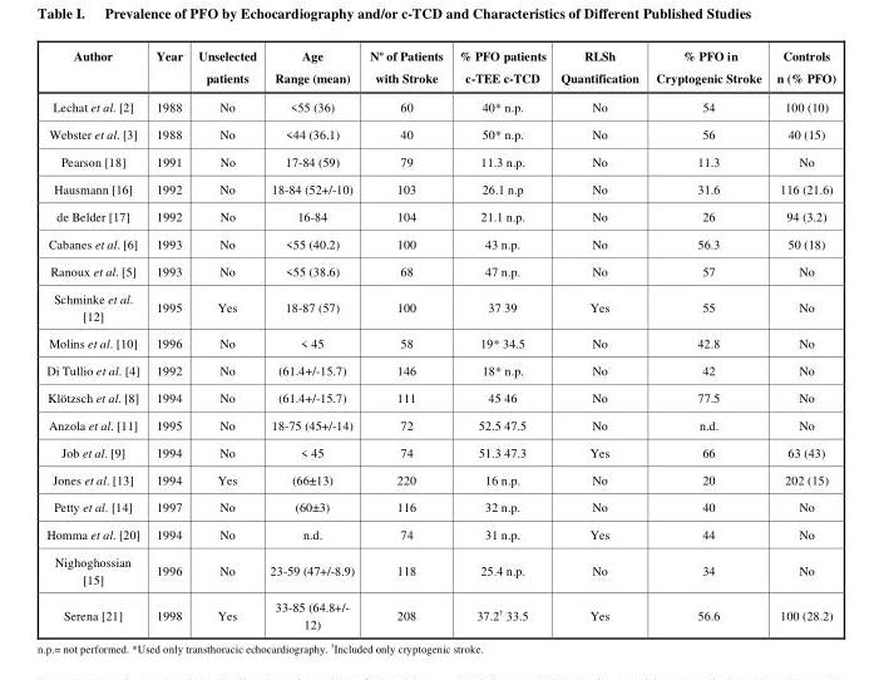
<table><thead><tr><td>Author</td><td>Year</td><td>Unselected patients</td><td>Age Range (mean)</td><td>Nº of Patients with Stroke</td><td>% PFO patients c-TEE c-TCD</td><td>RLSh Quantification</td><td>% PFO in Cryptogenic Stroke</td><td>Controls n (% PFO)</td></tr></thead><tbody><tr><td>Lechat et al. [2]</td><td>1988</td><td>No</td><td>&lt;55 (36)</td><td>60</td><td>40* n.p.</td><td>No</td><td>54</td><td>100 (10)</td></tr><tr><td>Webster et al. [3]</td><td>1988</td><td>No</td><td>&lt;44 (36.1)</td><td>40</td><td>50* n.p.</td><td>No</td><td>56</td><td>40 (15)</td></tr><tr><td>Pearson [18]</td><td>1991</td><td>No</td><td>17-84 (59)</td><td>79</td><td>11.3 n.p.</td><td>No</td><td>11.3</td><td>No</td></tr><tr><td>Hausmann [16]</td><td>1992</td><td>No</td><td>18-84 (52+/-10)</td><td>103</td><td>26.1 n.p</td><td>No</td><td>31.6</td><td>116 (21.6)</td></tr><tr><td>de Belder [17]</td><td>1992</td><td>No</td><td>16-84</td><td>104</td><td>21.1 n.p.</td><td>No</td><td>26</td><td>94 (3.2)</td></tr><tr><td>Cabanes et al. [6]</td><td>1993</td><td>No</td><td>&lt;55 (40.2)</td><td>100</td><td>43 n.p.</td><td>No</td><td>56.3</td><td>50 (18)</td></tr><tr><td>Ranoux et al. [5]</td><td>1993</td><td>No</td><td>&lt;55 (38.6)</td><td>68</td><td>47 n.p.</td><td>No</td><td>57</td><td>No</td></tr><tr><td>Schminke et al. [12]</td><td>1995</td><td>Yes</td><td>18-87 (57)</td><td>100</td><td>37 39</td><td>Yes</td><td>55</td><td>No</td></tr><tr><td>Molins et al. [10]</td><td>1996</td><td>No</td><td>&lt; 45</td><td>58</td><td>19* 34.5</td><td>No</td><td>42.8</td><td>No</td></tr><tr><td>Di Tullio et al. [4]</td><td>1992</td><td>No</td><td>(61.4+/-15.7)</td><td>146</td><td>18* n.p.</td><td>No</td><td>42</td><td>No</td></tr><tr><td>Klötzsch et al. [8]</td><td>1994</td><td>No</td><td>(61.4+/-15.7)</td><td>111</td><td>45 46</td><td>No</td><td>77.5</td><td>No</td></tr><tr><td>Anzola et al. [11]</td><td>1995</td><td>No</td><td>18-75 (45+/-14)</td><td>72</td><td>52.5 47.5</td><td>No</td><td>n.d.</td><td>No</td></tr><tr><td>Job et al. [9]</td><td>1994</td><td>No</td><td>&lt; 45</td><td>74</td><td>51.3 47.3</td><td>Yes</td><td>66</td><td>63 (43)</td></tr><tr><td>Jones et al. [13]</td><td>1994</td><td>Yes</td><td>(66±13)</td><td>220</td><td>16 n.p.</td><td>No</td><td>20</td><td>202 (15)</td></tr><tr><td>Petty et al. [14]</td><td>1997</td><td>No</td><td>(60±3)</td><td>116</td><td>32 n.p.</td><td>No</td><td>40</td><td>No</td></tr><tr><td>Homma et al. [20]</td><td>1994</td><td>No</td><td>n.d.</td><td>74</td><td>31 n.p.</td><td>Yes</td><td>44</td><td>No</td></tr><tr><td>Nighoghossian [15]</td><td>1996</td><td>No</td><td>23-59 (47+/-8.9)</td><td>118</td><td>25.4 n.p.</td><td>No</td><td>34</td><td>No</td></tr><tr><td>Serena [21]</td><td>1998</td><td>Yes</td><td>33-85 (64.8+/- 12)</td><td>208</td><td>37.2† 33.5</td><td>Yes</td><td>56.6</td><td>100 (28.2)</td></tr></tbody></table>